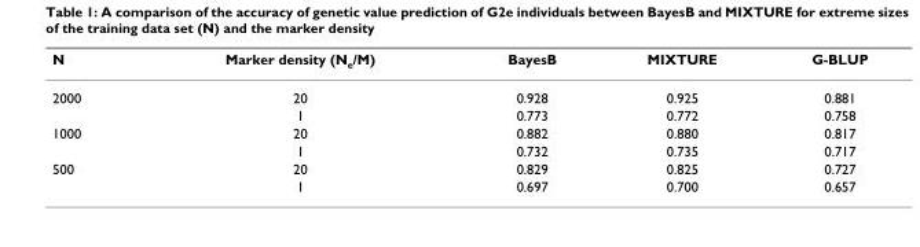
<table><thead><tr><td>N</td><td>Marker density (N<sub>e</sub>/M)</td><td>BayesB</td><td>MIXTURE</td><td>G-BLUP</td></tr></thead><tbody><tr><td rowspan="2">2000</td><td>20</td><td>0.928</td><td>0.925</td><td>0.881</td></tr><tr><td>1</td><td>0.773</td><td>0.772</td><td>0.758</td></tr><tr><td rowspan="2">1000</td><td>20</td><td>0.882</td><td>0.880</td><td>0.817</td></tr><tr><td>1</td><td>0.732</td><td>0.735</td><td>0.717</td></tr><tr><td rowspan="2">500</td><td>20</td><td>0.829</td><td>0.825</td><td>0.727</td></tr><tr><td>1</td><td>0.697</td><td>0.700</td><td>0.657</td></tr></tbody></table>